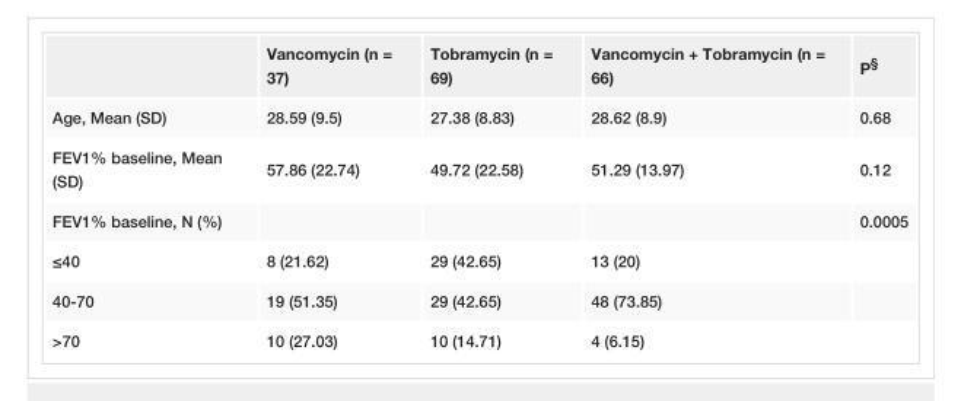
<table><thead><tr><td></td><td>Vancomycin (n = 37)</td><td>Tobramycin (n = 69)</td><td>Vancomycin + Tobramycin (n = 66)</td><td>P<sup>§</sup></td></tr></thead><tbody><tr><td>Age, Mean (SD)</td><td>28.59 (9.5)</td><td>27.38 (8.83)</td><td>28.62 (8.9)</td><td>0.68</td></tr><tr><td>FEV1% baseline, Mean (SD)</td><td>57.86 (22.74)</td><td>49.72 (22.58)</td><td>51.29 (13.97)</td><td>0.12</td></tr><tr><td>FEV1% baseline, N (%)</td><td></td><td></td><td></td><td>0.0005</td></tr><tr><td>≤40</td><td>8 (21.62)</td><td>29 (42.65)</td><td>13 (20)</td><td></td></tr><tr><td>40-70</td><td>19 (51.35)</td><td>29 (42.65)</td><td>48 (73.85)</td><td></td></tr><tr><td>&gt;70</td><td>10 (27.03)</td><td>10 (14.71)</td><td>4 (6.15)</td><td></td></tr></tbody></table>